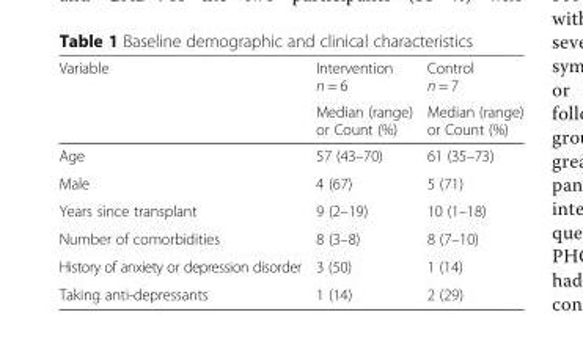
<table><thead><tr><td rowspan="2">Variable</td><td rowspan="2">Intervention n = 6 Median (range) or Count (%)</td><td rowspan="2">Control n = 7 Median (range) or Count (%)</td></tr><tr></tr></thead><tbody><tr><td>Age</td><td>57 (43–70)</td><td>61 (35–73)</td></tr><tr><td>Male</td><td>4 (67)</td><td>5 (71)</td></tr><tr><td>Years since transplant</td><td>9 (2–19)</td><td>10 (1–18)</td></tr><tr><td>Number of comorbidities</td><td>8 (3–8)</td><td>8 (7–10)</td></tr><tr><td>History of anxiety or depression disorder</td><td>3 (50)</td><td>1 (14)</td></tr><tr><td>Taking anti-depressants</td><td>1 (14)</td><td>2 (29)</td></tr></tbody></table>